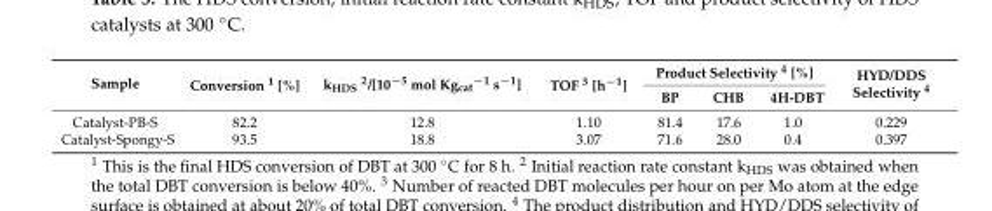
<table><thead><tr><td rowspan="2">Sample</td><td rowspan="2">Conversion 1 [%]</td><td rowspan="2">kHDS 2/[10−5 mol Kgcat−1 s−1]</td><td rowspan="2">TOF 3 [h−1]</td><td colspan="3">Product Selectivity 4 [%]</td><td rowspan="2">HYD/DDS Selectivity 4</td></tr><tr><td>BP</td><td>CHB</td><td>4H-DBT</td></tr></thead><tbody><tr><td>Catalyst-PB-S</td><td>82.2</td><td>12.8</td><td>1.10</td><td>81.4</td><td>17.6</td><td>1.0</td><td>0.229</td></tr><tr><td>Catalyst-Spongy-S</td><td>93.5</td><td>18.8</td><td>3.07</td><td>71.6</td><td>28.0</td><td>0.4</td><td>0.397</td></tr></tbody></table>